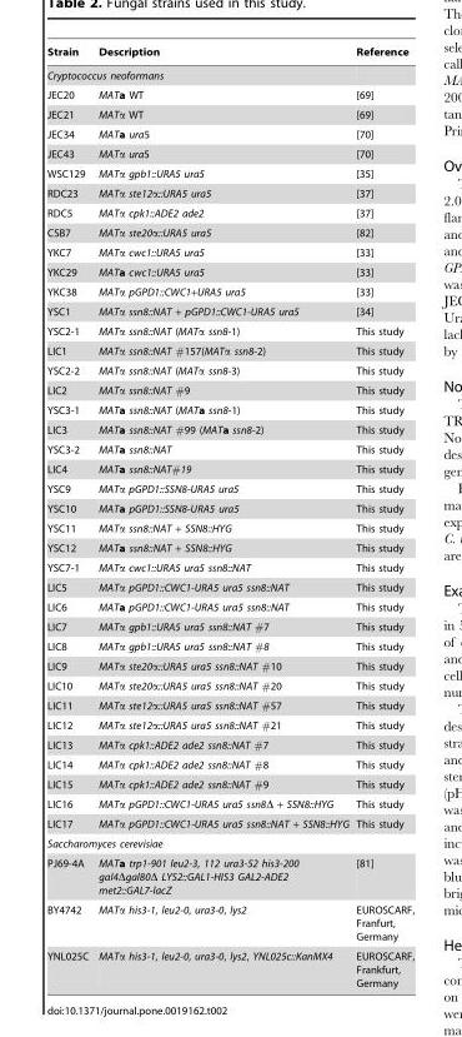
<table><thead><tr><td>Strain</td><td>Description</td><td>Reference</td></tr></thead><tbody><tr><td colspan="3">Cryptococcus neoformans</td></tr><tr><td>JEC20</td><td>MATa WT</td><td>[69]</td></tr><tr><td>JEC21</td><td>MATα WT</td><td>[69]</td></tr><tr><td>JEC34</td><td>MATa ura5</td><td>[70]</td></tr><tr><td>JEC43</td><td>MATα ura5</td><td>[70]</td></tr><tr><td>WSC129</td><td>MATα gpb1::URA5 ura5</td><td>[35]</td></tr><tr><td>RDC23</td><td>MATα ste12α::URA5 ura5</td><td>[37]</td></tr><tr><td>RDC5</td><td>MATα cpk1::ADE2 ade2</td><td>[37]</td></tr><tr><td>CSB7</td><td>MATα ste20α::URA5 ura5</td><td>[82]</td></tr><tr><td>YKC7</td><td>MATα cwc1::URA5 ura5</td><td>[33]</td></tr><tr><td>YKC29</td><td>MATa cwc1::URA5 ura5</td><td>[33]</td></tr><tr><td>YKC38</td><td>MATα pGPD1::CWC1+URA5 ura5</td><td>[33]</td></tr><tr><td>YSC1</td><td>MATα ssn8::NAT + pGPD1::CWC1-URA5 ura5</td><td>[34]</td></tr><tr><td>YSC2-1</td><td>MATα ssn8::NAT (MATα ssn8-1)</td><td>This study</td></tr><tr><td>LIC1</td><td>MATα ssn8::NAT #157(MATα ssn8-2)</td><td>This study</td></tr><tr><td>YSC2-2</td><td>MATα ssn8::NAT (MATα ssn8-3)</td><td>This study</td></tr><tr><td>LIC2</td><td>MATα ssn8::NAT #9</td><td>This study</td></tr><tr><td>YSC3-1</td><td>MATa ssn8::NAT (MATa ssn8-1)</td><td>This study</td></tr><tr><td>LIC3</td><td>MATa ssn8::NAT #99 (MATa ssn8-2)</td><td>This study</td></tr><tr><td>YSC3-2</td><td>MATa ssn8::NAT</td><td>This study</td></tr><tr><td>LIC4</td><td>MATa ssn8::NAT#19</td><td>This study</td></tr><tr><td>YSC9</td><td>MATα pGPD1::SSN8-URA5 ura5</td><td>This study</td></tr><tr><td>YSC10</td><td>MATa pGPD1::SSN8-URA5 ura5</td><td>This study</td></tr><tr><td>YSC11</td><td>MATα ssn8::NAT + SSN8::HYG</td><td>This study</td></tr><tr><td>YSC12</td><td>MATa ssn8::NAT + SSN8::HYG</td><td>This study</td></tr><tr><td>YSC7-1</td><td>MATα cwc1::URA5 ura5 ssn8::NAT</td><td>This study</td></tr><tr><td>LIC5</td><td>MATα pGPD1::CWC1-URA5 ura5 ssn8::NAT</td><td>This study</td></tr><tr><td>LIC6</td><td>MATa pGPD1::CWC1-URA5 ura5 ssn8::NAT</td><td>This study</td></tr><tr><td>LIC7</td><td>MATα gpb1::URA5 ura5 ssn8::NAT #7</td><td>This study</td></tr><tr><td>LIC8</td><td>MATα gpb1::URA5 ura5 ssn8::NAT #8</td><td>This study</td></tr><tr><td>LIC9</td><td>MATα ste20α::URA5 ura5 ssn8::NAT #10</td><td>This study</td></tr><tr><td>LIC10</td><td>MATα ste20α::URA5 ura5 ssn8::NAT #20</td><td>This study</td></tr><tr><td>LIC11</td><td>MATα ste12α::URA5 ura5 ssn8::NAT #57</td><td>This study</td></tr><tr><td>LIC12</td><td>MATα ste12α::URA5 ura5 ssn8::NAT #21</td><td>This study</td></tr><tr><td>LIC13</td><td>MATα cpk1::ADE2 ade2 ssn8::NAT #7</td><td>This study</td></tr><tr><td>LIC14</td><td>MATα cpk1::ADE2 ade2 ssn8::NAT #8</td><td>This study</td></tr><tr><td>LIC15</td><td>MATα cpk1::ADE2 ade2 ssn8::NAT #9</td><td>This study</td></tr><tr><td>LIC16</td><td>MATα pGPD1::CWC1-URA5 ura5 ssn8Δ + SSN8::HYG</td><td>This study</td></tr><tr><td>LIC17</td><td>MATα pGPD1::CWC1-URA5 ura5 ssn8::NAT + SSN8::HYG</td><td>This study</td></tr><tr><td colspan="3">Saccharomyces cerevisiae</td></tr><tr><td>PJ69-4A</td><td>MATa trp1-901 leu2-3, 112 ura3-52 his3-200 gal4Δgal80Δ LYS2::GAL1-HIS3 GAL2-ADE2 met2::GAL7-lacZ</td><td>[81]</td></tr><tr><td>BY4742</td><td>MATα his3-1, leu2-0, ura3-0, lys2</td><td>EUROSCARF, Franfurt, Germany</td></tr><tr><td>YNL025C</td><td>MATα his3-1, leu2-0, ura3-0, lys2, YNL025c::KanMX4</td><td>EUROSCARF, Frankfurt, Germany</td></tr></tbody></table>